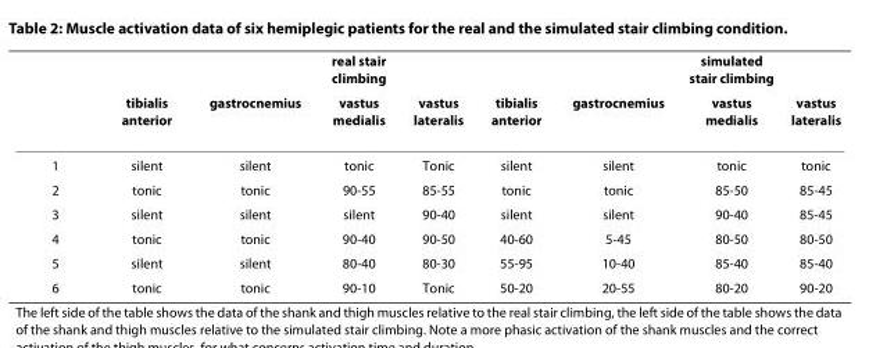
<table><thead><tr><td rowspan="2"></td><td rowspan="2">tibialis anterior</td><td rowspan="2">gastrocnemius</td><td rowspan="2">real stair climbing vastus medialis</td><td rowspan="2">vastus lateralis</td><td rowspan="2">tibialis anterior</td><td rowspan="2">gastrocnemius</td><td rowspan="2">simulated stair climbing vastus medialis</td><td rowspan="2">vastus lateralis</td></tr><tr></tr></thead><tbody><tr><td>1</td><td>silent</td><td>silent</td><td>tonic</td><td>Tonic</td><td>silent</td><td>silent</td><td>tonic</td><td>tonic</td></tr><tr><td>2</td><td>tonic</td><td>tonic</td><td>90-55</td><td>85-55</td><td>tonic</td><td>tonic</td><td>85-50</td><td>85-45</td></tr><tr><td>3</td><td>silent</td><td>silent</td><td>silent</td><td>90-40</td><td>silent</td><td>silent</td><td>90-40</td><td>85-45</td></tr><tr><td>4</td><td>tonic</td><td>tonic</td><td>90-40</td><td>90-50</td><td>40-60</td><td>5-45</td><td>80-50</td><td>80-50</td></tr><tr><td>5</td><td>silent</td><td>silent</td><td>80-40</td><td>80-30</td><td>55-95</td><td>10-40</td><td>85-40</td><td>85-40</td></tr><tr><td>6</td><td>tonic</td><td>tonic</td><td>90-10</td><td>Tonic</td><td>50-20</td><td>20-55</td><td>80-20</td><td>90-20</td></tr></tbody></table>